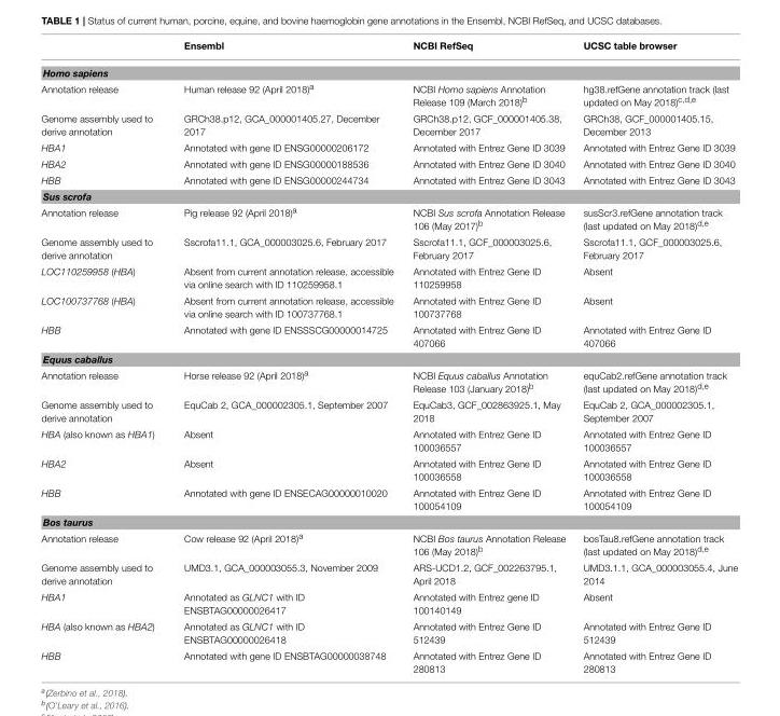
<table><thead><tr><td></td><td>Ensembl</td><td>NCBI RefSeq</td><td>UCSC table browser</td></tr></thead><tbody><tr><td colspan="4">Homo sapiens</td></tr><tr><td>Annotation release</td><td>Human release 92 (April 2018)<sup>a</sup></td><td>NCBI Homo sapiens Annotation Release 109 (March 2018)<sup>b</sup></td><td>hg38.refGene annotation track (last updated on May 2018)<sup>c,d,e</sup></td></tr><tr><td>Genome assembly used to derive annotation</td><td>GRCh38.p12, GCA_000001405.27, December 2017</td><td>GRCh38.p12, GCF_000001405.38, December 2017</td><td>GRCh38, GCF_000001405.15, December 2013</td></tr><tr><td>HBA1</td><td>Annotated with gene ID ENSG00000206172</td><td>Annotated with Entrez Gene ID 3039</td><td>Annotated with Entrez Gene ID 3039</td></tr><tr><td>HBA2</td><td>Annotated with gene ID ENSG00000188536</td><td>Annotated with Entrez Gene ID 3040</td><td>Annotated with Entrez Gene ID 3040</td></tr><tr><td>HBB</td><td>Annotated with gene ID ENSG00000244734</td><td>Annotated with Entrez Gene ID 3043</td><td>Annotated with Entrez Gene ID 3043</td></tr><tr><td colspan="4">Sus scrofa</td></tr><tr><td>Annotation release</td><td>Pig release 92 (April 2018)<sup>a</sup></td><td>NCBI Sus scrofa Annotation Release 106 (May 2017)<sup>b</sup></td><td>susScr3.refGene annotation track (last updated on May 2018)<sup>d,e</sup></td></tr><tr><td>Genome assembly used to derive annotation</td><td>Sscrofa11.1, GCA_000003025.6, February 2017</td><td>Sscrofa11.1, GCF_000003025.6, February 2017</td><td>Sscrofa11.1, GCF_000003025.6, February 2017</td></tr><tr><td>LOC110259958 (HBA)</td><td>Absent from current annotation release, accessible via online search with ID 110259958.1</td><td>Annotated with Entrez Gene ID 110259958</td><td>Absent</td></tr><tr><td>LOC100737768 (HBA)</td><td>Absent from current annotation release, accessible via online search with ID 100737768.1</td><td>Annotated with Entrez Gene ID 100737768</td><td>Absent</td></tr><tr><td>HBB</td><td>Annotated with gene ID ENSSSCG00000014725</td><td>Annotated with Entrez Gene ID 407066</td><td>Annotated with Entrez Gene ID 407066</td></tr><tr><td colspan="4">Equus caballus</td></tr><tr><td>Annotation release</td><td>Horse release 92 (April 2018)<sup>a</sup></td><td>NCBI Equus caballus Annotation Release 103 (January 2018)<sup>b</sup></td><td>equCab2.refGene annotation track (last updated on May 2018)<sup>d,e</sup></td></tr><tr><td>Genome assembly used to derive annotation</td><td>EquCab 2, GCA_000002305.1, September 2007</td><td>EquCab3, GCF_002863925.1, May 2018</td><td>EquCab 2, GCA_000002305.1, September 2007</td></tr><tr><td>HBA (also known as HBA1)</td><td>Absent</td><td>Annotated with Entrez Gene ID 100036557</td><td>Annotated with Entrez Gene ID 100036557</td></tr><tr><td>HBA2</td><td>Absent</td><td>Annotated with Entrez Gene ID 100036558</td><td>Annotated with Entrez Gene ID 100036558</td></tr><tr><td>HBB</td><td>Annotated with gene ID ENSECAG00000010020</td><td>Annotated with Entrez Gene ID 100054109</td><td>Annotated with Entrez Gene ID 100054109</td></tr><tr><td colspan="4">Bos taurus</td></tr><tr><td>Annotation release</td><td>Cow release 92 (April 2018)<sup>a</sup></td><td>NCBI Bos taurus Annotation Release 106 (May 2018)<sup>b</sup></td><td>bosTau8.refGene annotation track (last updated on May 2018)<sup>d,e</sup></td></tr><tr><td>Genome assembly used to derive annotation</td><td>UMD3.1, GCA_000003055.3, November 2009</td><td>ARS-UCD1.2, GCF_002263795.1, April 2018</td><td>UMD3.1.1, GCA_000003055.4, June 2014</td></tr><tr><td>HBA1</td><td>Annotated as GLNC1 with ID ENSBTAG00000026417</td><td>Annotated with Entrez gene ID 100140149</td><td>Absent</td></tr><tr><td>HBA (also known as HBA2)</td><td>Annotated as GLNC1 with ID ENSBTAG00000026418</td><td>Annotated with Entrez Gene ID 512439</td><td>Annotated with Entrez Gene ID 512439</td></tr><tr><td>HBB</td><td>Annotated with gene ID ENSBTAG00000038748</td><td>Annotated with Entrez Gene ID 280813</td><td>Annotated with Entrez Gene ID 280813</td></tr></tbody></table>